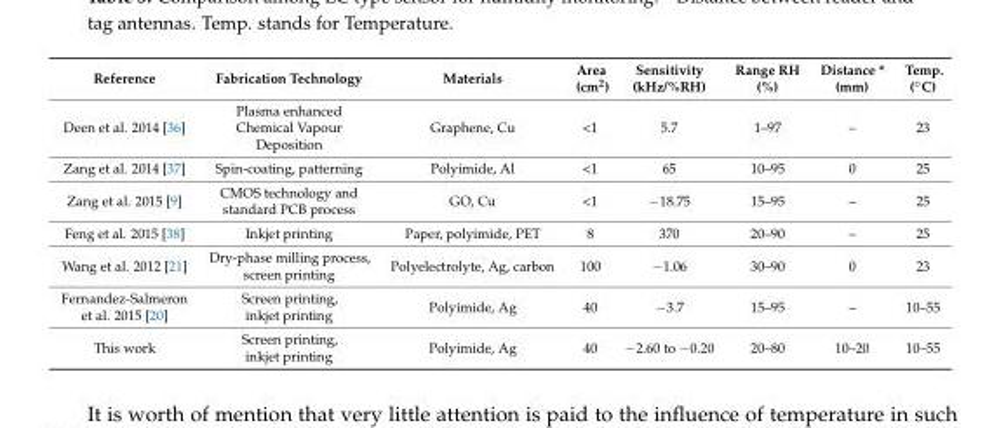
<table><thead><tr><td>Reference</td><td>Fabrication Technology</td><td>Materials</td><td>Area (cm<sup>2</sup>)</td><td>Sensitivity (kHz/%RH)</td><td>Range RH (%)</td><td>Distance * (mm)</td><td>Temp. (◦C)</td></tr></thead><tbody><tr><td>Deen et al. 2014 [36]</td><td>Plasma enhanced Chemical Vapour Deposition</td><td>Graphene, Cu</td><td>&lt;1</td><td>5.7</td><td>1–97</td><td>–</td><td>23</td></tr><tr><td>Zang et al. 2014 [37]</td><td>Spin-coating, patterning</td><td>Polyimide, Al</td><td>&lt;1</td><td>65</td><td>10–95</td><td>0</td><td>25</td></tr><tr><td>Zang et al. 2015 [9]</td><td>CMOS technology and standard PCB process</td><td>GO, Cu</td><td>&lt;1</td><td>−18.75</td><td>15–95</td><td>–</td><td>25</td></tr><tr><td>Feng et al. 2015 [38]</td><td>Inkjet printing</td><td>Paper, polyimide, PET</td><td>8</td><td>370</td><td>20–90</td><td>–</td><td>25</td></tr><tr><td>Wang et al. 2012 [21]</td><td>Dry-phase milling process, screen printing</td><td>Polyelectrolyte, Ag, carbon</td><td>100</td><td>−1.06</td><td>30–90</td><td>0</td><td>23</td></tr><tr><td>Fernandez-Salmeron et al. 2015 [20]</td><td>Screen printing, inkjet printing</td><td>Polyimide, Ag</td><td>40</td><td>−3.7</td><td>15–95</td><td>–</td><td>10–55</td></tr><tr><td>This work</td><td>Screen printing, inkjet printing</td><td>Polyimide, Ag</td><td>40</td><td>−2.60 to −0.20</td><td>20–80</td><td>10–20</td><td>10–55</td></tr></tbody></table>